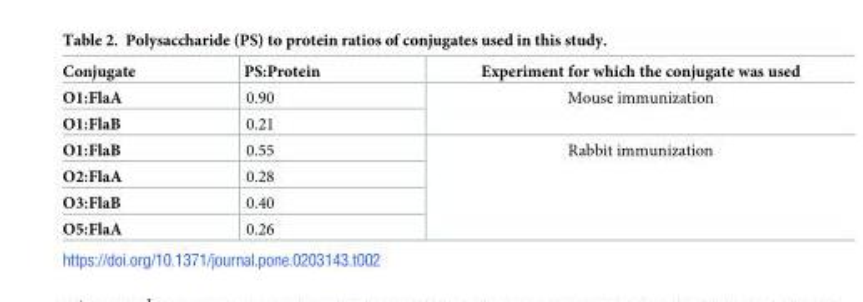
<table><thead><tr><td>Conjugate</td><td>PS:Protein</td><td>Experiment for which the conjugate was used</td></tr></thead><tbody><tr><td>O1:FlaA</td><td>0.90</td><td rowspan="2">Mouse immunization</td></tr><tr><td>O1:FlaB</td><td>0.21</td></tr><tr><td>O1:FlaB</td><td>0.55</td><td rowspan="4">Rabbit immunization</td></tr><tr><td>O2:FlaA</td><td>0.28</td></tr><tr><td>O3:FlaB</td><td>0.40</td></tr><tr><td>O5:FlaA</td><td>0.26</td></tr></tbody></table>